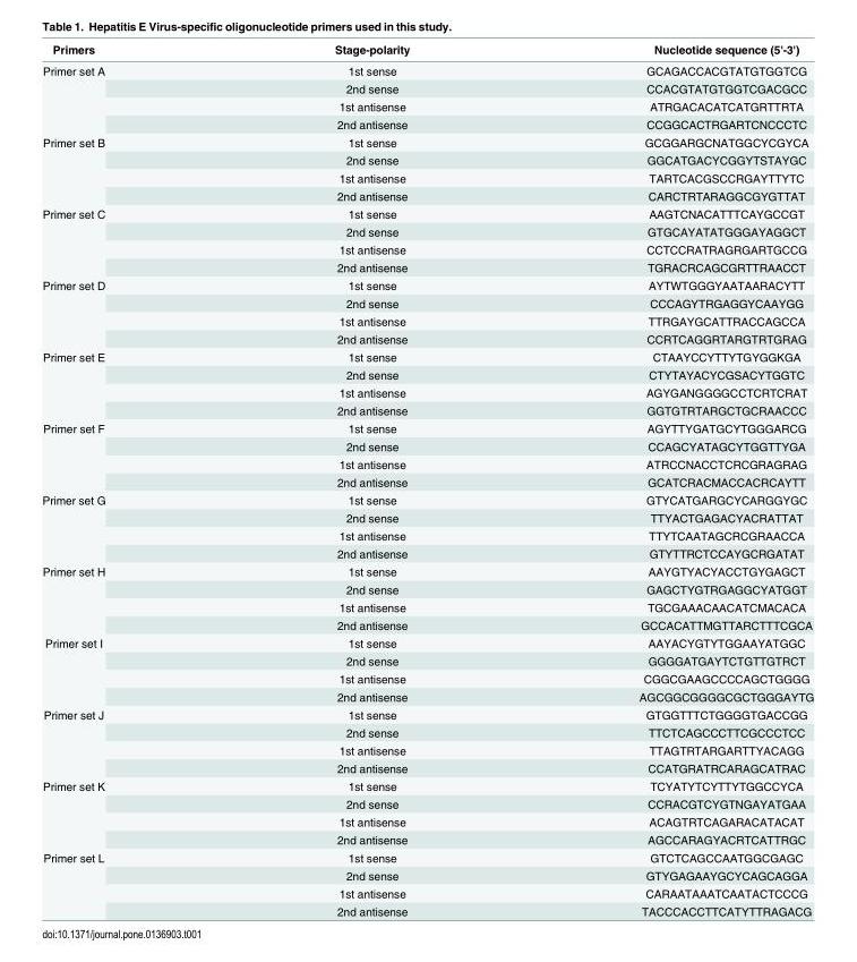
<table><thead><tr><td>Primers</td><td>Stage-polarity</td><td>Nucleotide sequence (5&#x27;-3&#x27;)</td></tr></thead><tbody><tr><td rowspan="4">Primer set A</td><td>1st sense</td><td>GCAGACCACGTATGTGGTCG</td></tr><tr><td>2nd sense</td><td>CCACGTATGTGGTCGACGCC</td></tr><tr><td>1st antisense</td><td>ATRGACACATCATGRTTRTA</td></tr><tr><td>2nd antisense</td><td>CCGGCACTRGARTCNCCCTC</td></tr><tr><td rowspan="4">Primer set B</td><td>1st sense</td><td>GCGGARGCNATGGCYCGYCA</td></tr><tr><td>2nd sense</td><td>GGCATGACYCGGYTSTAYGC</td></tr><tr><td>1st antisense</td><td>TARTCACGSCCRGAYTTYTC</td></tr><tr><td>2nd antisense</td><td>CARCTRTARAGGCGYGTTAT</td></tr><tr><td rowspan="4">Primer set C</td><td>1st sense</td><td>AAGTCNACATTTCAYGCCGT</td></tr><tr><td>2nd sense</td><td>GTGCAYATATGGGAYAGGCT</td></tr><tr><td>1st antisense</td><td>CCTCCRATRAGRGARTGCCG</td></tr><tr><td>2nd antisense</td><td>TGRACRCAGCGRTTRAACCT</td></tr><tr><td rowspan="4">Primer set D</td><td>1st sense</td><td>AYTWTGGGYAATAARACYTT</td></tr><tr><td>2nd sense</td><td>CCCAGYTRGAGGYCAAYGG</td></tr><tr><td>1st antisense</td><td>TTRGAYGCATTRACCAGCCA</td></tr><tr><td>2nd antisense</td><td>CCRTCAGGRTARGTRTGRAG</td></tr><tr><td rowspan="4">Primer set E</td><td>1st sense</td><td>CTAAYCCYTTYTGYGGKGA</td></tr><tr><td>2nd sense</td><td>CTYTAYACYCGSACYTGGTC</td></tr><tr><td>1st antisense</td><td>AGYGANGGGGCCTCRTCRAT</td></tr><tr><td>2nd antisense</td><td>GGTGTRTARGCTGCRAACCC</td></tr><tr><td rowspan="4">Primer set F</td><td>1st sense</td><td>AGYTTYGATGCYTGGGARCG</td></tr><tr><td>2nd sense</td><td>CCAGCYATAGCYTGGTTYGA</td></tr><tr><td>1st antisense</td><td>ATRCCNACCTCRCGRAGRAG</td></tr><tr><td>2nd antisense</td><td>GCATCRACMACCACRCAYTT</td></tr><tr><td rowspan="4">Primer set G</td><td>1st sense</td><td>GTYCATGARGCYCARGGYGC</td></tr><tr><td>2nd sense</td><td>TTYACTGAGACYACRATTAT</td></tr><tr><td>1st antisense</td><td>TTYTCAATAGCRCGRAACCA</td></tr><tr><td>2nd antisense</td><td>GTYTTRCTCCAYGCRGATAT</td></tr><tr><td rowspan="4">Primer set H</td><td>1st sense</td><td>AAYGTYACYACCTGYGAGCT</td></tr><tr><td>2nd sense</td><td>GAGCTYGTRGAGGCYATGGT</td></tr><tr><td>1st antisense</td><td>TGCGAAACAACATCMACACA</td></tr><tr><td>2nd antisense</td><td>GCCACATTMGTTARCTTTCGCA</td></tr><tr><td rowspan="4">Primer set I</td><td>1st sense</td><td>AAYACYGTYTGGAAYATGGC</td></tr><tr><td>2nd sense</td><td>GGGGATGAYTCTGTTGTRCT</td></tr><tr><td>1st antisense</td><td>CGGCGAAGCCCCAGCTGGGG</td></tr><tr><td>2nd antisense</td><td>AGCGGCGGGGCGCTGGGAYTG</td></tr><tr><td rowspan="4">Primer set J</td><td>1st sense</td><td>GTGGTTTCTGGGGTGACCGG</td></tr><tr><td>2nd sense</td><td>TTCTCAGCCCTTCGCCCTCC</td></tr><tr><td>1st antisense</td><td>TTAGTRTARGARTTYACAGG</td></tr><tr><td>2nd antisense</td><td>CCATGRATRCARAGCATRAC</td></tr><tr><td rowspan="4">Primer set K</td><td>1st sense</td><td>TCYATYTCYTTYTGGCCYCA</td></tr><tr><td>2nd sense</td><td>CCRACGTCYGTNGAYATGAA</td></tr><tr><td>1st antisense</td><td>ACAGTRTCAGARACATACAT</td></tr><tr><td>2nd antisense</td><td>AGCCARAGYACRTCATTRGC</td></tr><tr><td rowspan="4">Primer set L</td><td>1st sense</td><td>GTCTCAGCCAATGGCGAGC</td></tr><tr><td>2nd sense</td><td>GTYGAGAAYGCYCAGCAGGA</td></tr><tr><td>1st antisense</td><td>CARAATAAATCAATACTCCCG</td></tr><tr><td>2nd antisense</td><td>TACCCACCTTCATYTTRAGACG</td></tr></tbody></table>